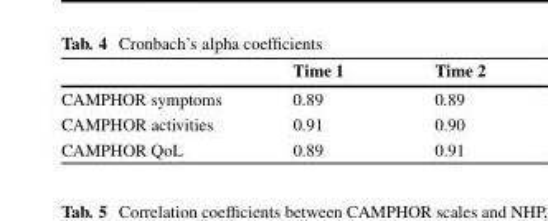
<table><thead><tr><td></td><td>Time 1</td><td>Time 2</td></tr></thead><tbody><tr><td>CAMPHOR symptoms</td><td>0.89</td><td>0.89</td></tr><tr><td>CAMPHOR activities</td><td>0.91</td><td>0.90</td></tr><tr><td>CAMPHOR QoL</td><td>0.89</td><td>0.91</td></tr></tbody></table>